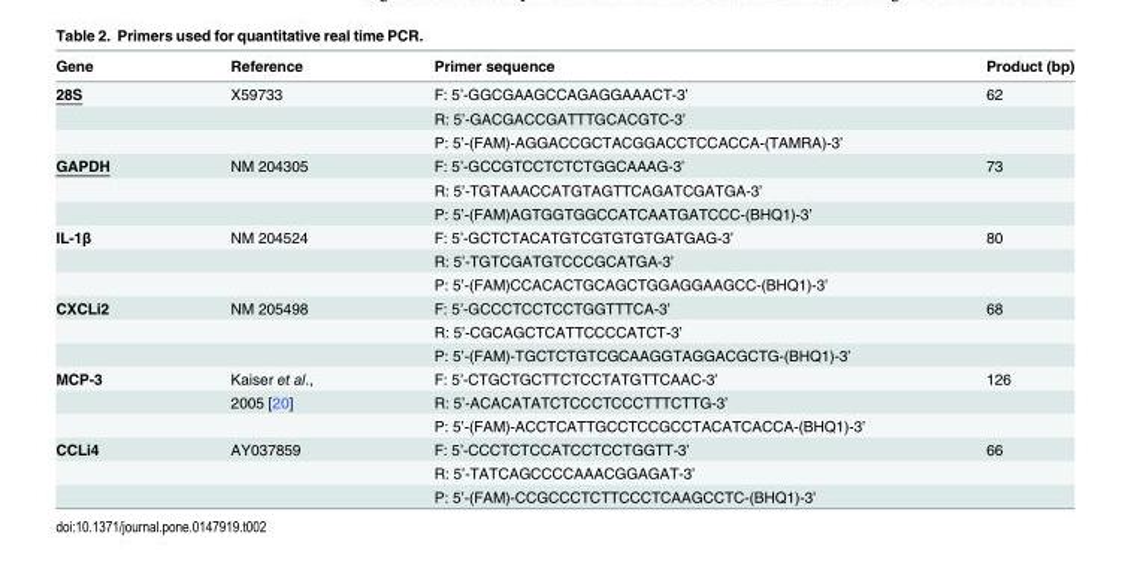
<table><thead><tr><td>Gene</td><td>Reference</td><td>Primer sequence</td><td>Product (bp)</td></tr></thead><tbody><tr><td rowspan="3">28S</td><td>X59733</td><td>F: 5’-GGCGAAGCCAGAGGAAACT-3’</td><td>62</td></tr><tr><td></td><td>R: 5’-GACGACCGATTTGCACGTC-3’</td><td></td></tr><tr><td></td><td>P: 5’-(FAM)-AGGACCGCTACGGACCTCCACCA-(TAMRA)-3’</td><td></td></tr><tr><td rowspan="3">GAPDH</td><td>NM 204305</td><td>F: 5’-GCCGTCCTCTCTGGCAAAG-3’</td><td>73</td></tr><tr><td></td><td>R: 5’-TGTAAACCATGTAGTTCAGATCGATGA-3’</td><td></td></tr><tr><td></td><td>P: 5’-(FAM)AGTGGTGGCCATCAATGATCCC-(BHQ1)-3’</td><td></td></tr><tr><td rowspan="3">IL-1β</td><td>NM 204524</td><td>F: 5’-GCTCTACATGTCGTGTGTGATGAG-3’</td><td>80</td></tr><tr><td></td><td>R: 5’-TGTCGATGTCCCGCATGA-3’</td><td></td></tr><tr><td></td><td>P: 5’-(FAM)CCACACTGCAGCTGGAGGAAGCC-(BHQ1)-3’</td><td></td></tr><tr><td rowspan="3">CXCLi2</td><td>NM 205498</td><td>F: 5’-GCCCTCCTCCTGGTTTCA-3’</td><td>68</td></tr><tr><td></td><td>R: 5’-CGCAGCTCATTCCCCATCT-3’</td><td></td></tr><tr><td></td><td>P: 5’-(FAM)-TGCTCTGTCGCAAGGTAGGACGCTG-(BHQ1)-3’</td><td></td></tr><tr><td rowspan="3">MCP-3</td><td>Kaiser et al.,</td><td>F: 5’-CTGCTGCTTCTCCTATGTTCAAC-3’</td><td>126</td></tr><tr><td>2005 [20]</td><td>R: 5’-ACACATATCTCCCTCCCTTTCTTG-3’</td><td></td></tr><tr><td></td><td>P: 5’-(FAM)-ACCTCATTGCCTCCGCCTACATCACCA-(BHQ1)-3’</td><td></td></tr><tr><td rowspan="3">CCLi4</td><td>AY037859</td><td>F: 5’-CCCTCTCCATCCTCCTGGTT-3’</td><td>66</td></tr><tr><td></td><td>R: 5’-TATCAGCCCCAAACGGAGAT-3’</td><td></td></tr><tr><td></td><td>P: 5’-(FAM)-CCGCCCTCTTCCCTCAAGCCTC-(BHQ1)-3’</td><td></td></tr></tbody></table>